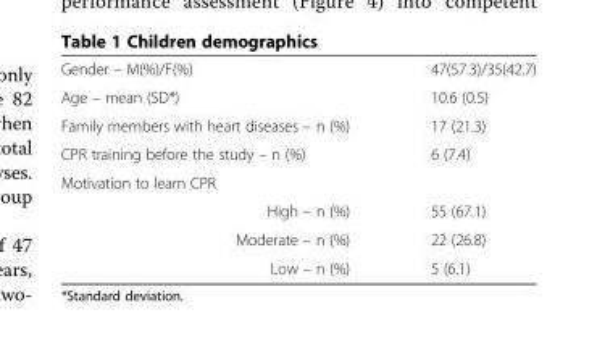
<table><tbody><tr><td>Gender – M(%)/F(%)</td><td>47(57.3)/35(42.7)</td></tr><tr><td>Age – mean (SD*)</td><td>10.6 (0.5)</td></tr><tr><td>Family members with heart diseases – n (%)</td><td>17 (21.3)</td></tr><tr><td>CPR training before the study – n (%)</td><td>6 (7.4)</td></tr><tr><td colspan="2">Motivation to learn CPR</td></tr><tr><td>High – n (%)</td><td>55 (67.1)</td></tr><tr><td>Moderate – n (%)</td><td>22 (26.8)</td></tr><tr><td>Low – n (%)</td><td>5 (6.1)</td></tr></tbody></table>